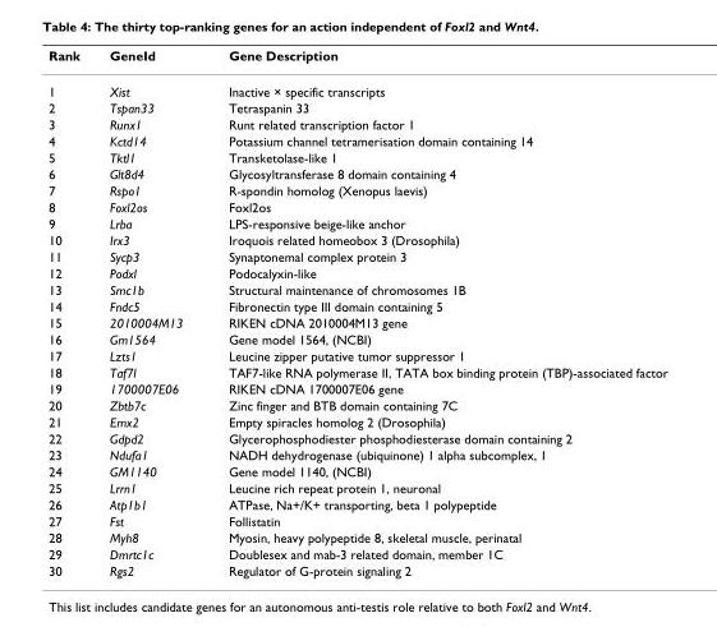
<table><thead><tr><td>Rank</td><td>GeneId</td><td>Gene Description</td></tr></thead><tbody><tr><td>1</td><td>Xist</td><td>Inactive × specific transcripts</td></tr><tr><td>2</td><td>Tspan33</td><td>Tetraspanin 33</td></tr><tr><td>3</td><td>Runx1</td><td>Runt related transcription factor 1</td></tr><tr><td>4</td><td>Kctd14</td><td>Potassium channel tetramerisation domain containing 14</td></tr><tr><td>5</td><td>Tktl1</td><td>Transketolase-like 1</td></tr><tr><td>6</td><td>Glt8d4</td><td>Glycosyltransferase 8 domain containing 4</td></tr><tr><td>7</td><td>Rspo1</td><td>R-spondin homolog (Xenopus laevis)</td></tr><tr><td>8</td><td>Foxl2os</td><td>Foxl2os</td></tr><tr><td>9</td><td>Lrba</td><td>LPS-responsive beige-like anchor</td></tr><tr><td>10</td><td>Irx3</td><td>Iroquois related homeobox 3 (Drosophila)</td></tr><tr><td>11</td><td>Sycp3</td><td>Synaptonemal complex protein 3</td></tr><tr><td>12</td><td>Podxl</td><td>Podocalyxin-like</td></tr><tr><td>13</td><td>Smc1b</td><td>Structural maintenance of chromosomes 1B</td></tr><tr><td>14</td><td>Fndc5</td><td>Fibronectin type III domain containing 5</td></tr><tr><td>15</td><td>2010004M13</td><td>RIKEN cDNA 2010004M13 gene</td></tr><tr><td>16</td><td>Gm1564</td><td>Gene model 1564, (NCBI)</td></tr><tr><td>17</td><td>Lzts1</td><td>Leucine zipper putative tumor suppressor 1</td></tr><tr><td>18</td><td>Taf7l</td><td>TAF7-like RNA polymerase II, TATA box binding protein (TBP)-associated factor</td></tr><tr><td>19</td><td>1700007E06</td><td>RIKEN cDNA 1700007E06 gene</td></tr><tr><td>20</td><td>Zbtb7c</td><td>Zinc finger and BTB domain containing 7C</td></tr><tr><td>21</td><td>Emx2</td><td>Empty spiracles homolog 2 (Drosophila)</td></tr><tr><td>22</td><td>Gdpd2</td><td>Glycerophosphodiester phosphodiesterase domain containing 2</td></tr><tr><td>23</td><td>Ndufa1</td><td>NADH dehydrogenase (ubiquinone) 1 alpha subcomplex, 1</td></tr><tr><td>24</td><td>GM1140</td><td>Gene model 1140, (NCBI)</td></tr><tr><td>25</td><td>Lrrn1</td><td>Leucine rich repeat protein 1, neuronal</td></tr><tr><td>26</td><td>Atp1b1</td><td>ATPase, Na+/K+ transporting, beta 1 polypeptide</td></tr><tr><td>27</td><td>Fst</td><td>Follistatin</td></tr><tr><td>28</td><td>Myh8</td><td>Myosin, heavy polypeptide 8, skeletal muscle, perinatal</td></tr><tr><td>29</td><td>Dmrtc1c</td><td>Doublesex and mab-3 related domain, member 1C</td></tr><tr><td>30</td><td>Rgs2</td><td>Regulator of G-protein signaling 2</td></tr></tbody></table>